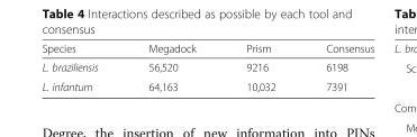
<table><thead><tr><td>Species</td><td>Megadock</td><td>Prism</td><td>Consensus</td></tr></thead><tbody><tr><td>L. braziliensis</td><td>56,520</td><td>9216</td><td>6198</td></tr><tr><td>L. infantum</td><td>64,163</td><td>10,032</td><td>7391</td></tr></tbody></table>